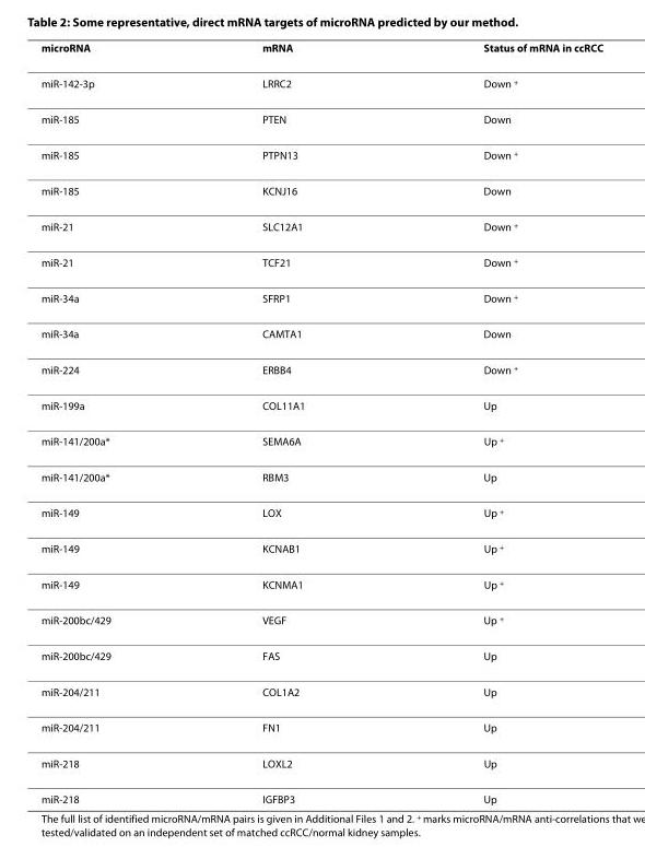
<table><thead><tr><td>microRNA</td><td>mRNA</td><td>Status of mRNA in ccRCC</td></tr></thead><tbody><tr><td>miR-142-3p</td><td>LRRC2</td><td>Down <sup>+</sup></td></tr><tr><td>miR-185</td><td>PTEN</td><td>Down</td></tr><tr><td>miR-185</td><td>PTPN13</td><td>Down <sup>+</sup></td></tr><tr><td>miR-185</td><td>KCNJ16</td><td>Down</td></tr><tr><td>miR-21</td><td>SLC12A1</td><td>Down <sup>+</sup></td></tr><tr><td>miR-21</td><td>TCF21</td><td>Down <sup>+</sup></td></tr><tr><td>miR-34a</td><td>SFRP1</td><td>Down <sup>+</sup></td></tr><tr><td>miR-34a</td><td>CAMTA1</td><td>Down</td></tr><tr><td>miR-224</td><td>ERBB4</td><td>Down <sup>+</sup></td></tr><tr><td>miR-199a</td><td>COL11A1</td><td>Up</td></tr><tr><td>miR-141/200a*</td><td>SEMA6A</td><td>Up <sup>+</sup></td></tr><tr><td>miR-141/200a*</td><td>RBM3</td><td>Up</td></tr><tr><td>miR-149</td><td>LOX</td><td>Up <sup>+</sup></td></tr><tr><td>miR-149</td><td>KCNAB1</td><td>Up <sup>+</sup></td></tr><tr><td>miR-149</td><td>KCNMA1</td><td>Up <sup>+</sup></td></tr><tr><td>miR-200bc/429</td><td>VEGF</td><td>Up <sup>+</sup></td></tr><tr><td>miR-200bc/429</td><td>FAS</td><td>Up</td></tr><tr><td>miR-204/211</td><td>COL1A2</td><td>Up</td></tr><tr><td>miR-204/211</td><td>FN1</td><td>Up</td></tr><tr><td>miR-218</td><td>LOXL2</td><td>Up</td></tr><tr><td>miR-218</td><td>IGFBP3</td><td>Up</td></tr></tbody></table>